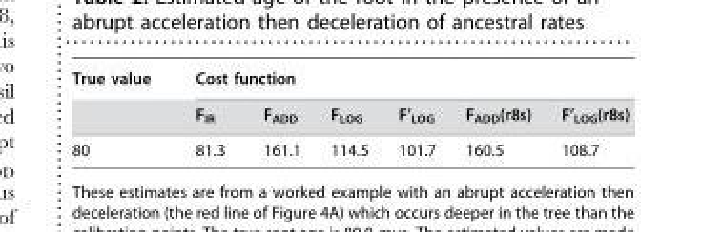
<table><thead><tr><td rowspan="2">True value</td><td colspan="6">Cost function</td></tr><tr><td>F<sub>IR</sub></td><td>F<sub>ADD</sub></td><td>F<sub>LOG</sub></td><td>F’<sub>LOG</sub></td><td>F<sub>ADD</sub>(r8s)</td><td>F’<sub>LOG</sub>(r8s)</td></tr></thead><tbody><tr><td>80</td><td>81.3</td><td>161.1</td><td>114.5</td><td>101.7</td><td>160.5</td><td>108.7</td></tr></tbody></table>